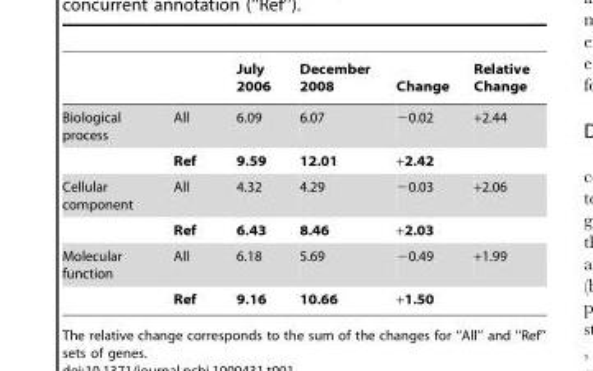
<table><thead><tr><td></td><td></td><td>July 2006</td><td>December 2008</td><td>Change</td><td>Relative Change</td></tr></thead><tbody><tr><td rowspan="2">Biological process</td><td>All</td><td>6.09</td><td>6.07</td><td>−0.02</td><td>+2.44</td></tr><tr><td>Ref</td><td>9.59</td><td>12.01</td><td>+2.42</td><td></td></tr><tr><td rowspan="2">Cellular component</td><td>All</td><td>4.32</td><td>4.29</td><td>−0.03</td><td>+2.06</td></tr><tr><td>Ref</td><td>6.43</td><td>8.46</td><td>+2.03</td><td></td></tr><tr><td rowspan="2">Molecular function</td><td>All</td><td>6.18</td><td>5.69</td><td>−0.49</td><td>+1.99</td></tr><tr><td>Ref</td><td>9.16</td><td>10.66</td><td>+1.50</td><td></td></tr></tbody></table>